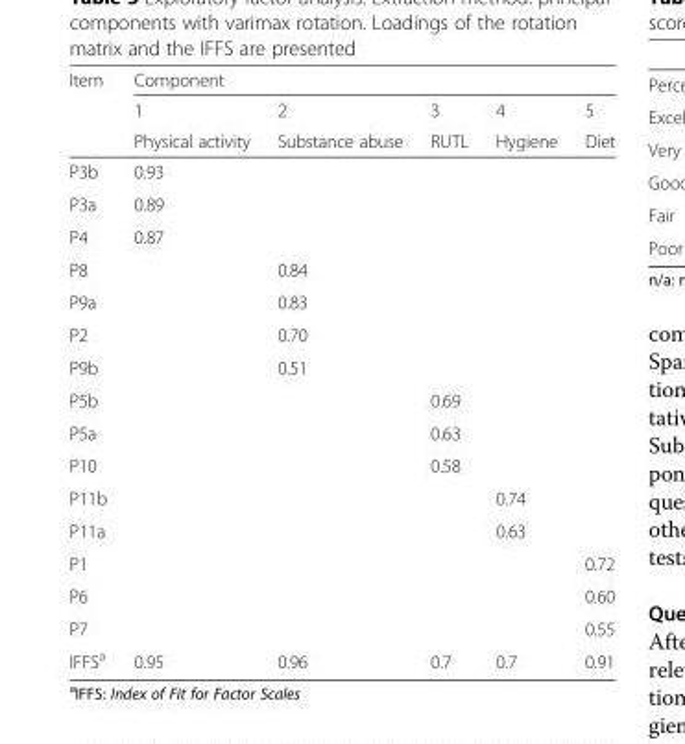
<table><thead><tr><td rowspan="3">Item</td><td colspan="5">Component</td></tr><tr><td rowspan="2">1 Physical activity</td><td rowspan="2">2 Substance abuse</td><td rowspan="2">3 RUTL</td><td rowspan="2">4 Hygiene</td><td rowspan="2">5 Diet</td></tr><tr></tr></thead><tbody><tr><td>P3b</td><td>0.93</td><td></td><td></td><td></td><td></td></tr><tr><td>P3a</td><td>0.89</td><td></td><td></td><td></td><td></td></tr><tr><td>P4</td><td>0.87</td><td></td><td></td><td></td><td></td></tr><tr><td>P8</td><td></td><td>0.84</td><td></td><td></td><td></td></tr><tr><td>P9a</td><td></td><td>0.83</td><td></td><td></td><td></td></tr><tr><td>P2</td><td></td><td>0.70</td><td></td><td></td><td></td></tr><tr><td>P9b</td><td></td><td>0.51</td><td></td><td></td><td></td></tr><tr><td>P5b</td><td></td><td></td><td>0.69</td><td></td><td></td></tr><tr><td>P5a</td><td></td><td></td><td>0.63</td><td></td><td></td></tr><tr><td>P10</td><td></td><td></td><td>0.58</td><td></td><td></td></tr><tr><td>P11b</td><td></td><td></td><td></td><td>0.74</td><td></td></tr><tr><td>P11a</td><td></td><td></td><td></td><td>0.63</td><td></td></tr><tr><td>P1</td><td></td><td></td><td></td><td></td><td>0.72</td></tr><tr><td>P6</td><td></td><td></td><td></td><td></td><td>0.60</td></tr><tr><td>P7</td><td></td><td></td><td></td><td></td><td>0.55</td></tr><tr><td>IFFS<sup>a</sup></td><td>0.95</td><td>0.96</td><td>0.7</td><td>0.7</td><td>0.91</td></tr></tbody></table>